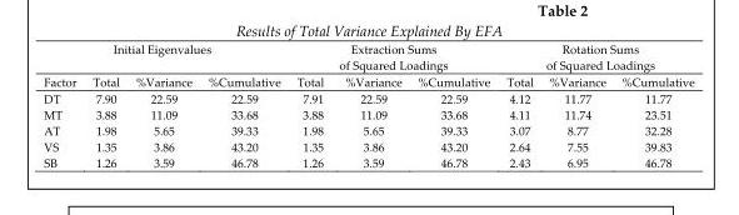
<table><thead><tr><td rowspan="2">Factor</td><td colspan="3">Initial Eigenvalues</td><td colspan="3">Extraction Sums of Squared Loadings</td><td colspan="3">Rotation Sums of Squared Loadings</td></tr><tr><td>Total</td><td>%Variance</td><td>%Cumulative</td><td>Total</td><td>%Variance</td><td>%Cumulative</td><td>Total</td><td>%Variance</td><td>%Cumulative</td></tr></thead><tbody><tr><td>DT</td><td>7.90</td><td>22.59</td><td>22.59</td><td>7.91</td><td>22.59</td><td>22.59</td><td>4.12</td><td>11.77</td><td>11.77</td></tr><tr><td>MT</td><td>3.88</td><td>11.09</td><td>33.68</td><td>3.88</td><td>11.09</td><td>33.68</td><td>4.11</td><td>11.74</td><td>23.51</td></tr><tr><td>AT</td><td>1.98</td><td>5.65</td><td>39.33</td><td>1.98</td><td>5.65</td><td>39.33</td><td>3.07</td><td>8.77</td><td>32.28</td></tr><tr><td>VS</td><td>1.35</td><td>3.86</td><td>43.20</td><td>1.35</td><td>3.86</td><td>43.20</td><td>2.64</td><td>7.55</td><td>39.83</td></tr><tr><td>SB</td><td>1.26</td><td>3.59</td><td>46.78</td><td>1.26</td><td>3.59</td><td>46.78</td><td>2.43</td><td>6.95</td><td>46.78</td></tr></tbody></table>